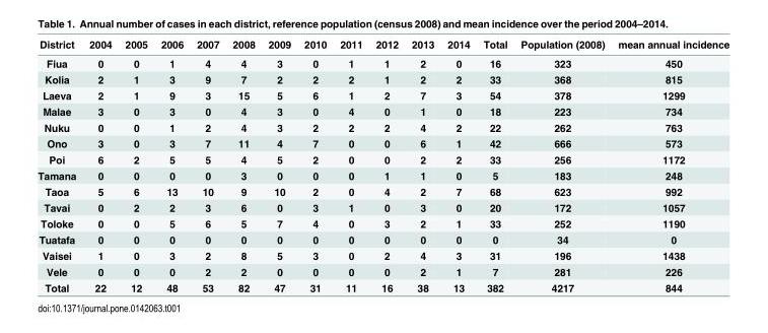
<table><thead><tr><td>District</td><td>2004</td><td>2005</td><td>2006</td><td>2007</td><td>2008</td><td>2009</td><td>2010</td><td>2011</td><td>2012</td><td>2013</td><td>2014</td><td>Total</td><td>Population (2008)</td><td>mean annual incidence</td></tr></thead><tbody><tr><td>Fiua</td><td>0</td><td>0</td><td>1</td><td>4</td><td>4</td><td>3</td><td>0</td><td>1</td><td>1</td><td>2</td><td>0</td><td>16</td><td>323</td><td>450</td></tr><tr><td>Kolia</td><td>2</td><td>1</td><td>3</td><td>9</td><td>7</td><td>2</td><td>2</td><td>2</td><td>1</td><td>2</td><td>2</td><td>33</td><td>368</td><td>815</td></tr><tr><td>Laeva</td><td>2</td><td>1</td><td>9</td><td>3</td><td>15</td><td>5</td><td>6</td><td>1</td><td>2</td><td>7</td><td>3</td><td>54</td><td>378</td><td>1299</td></tr><tr><td>Malae</td><td>3</td><td>0</td><td>3</td><td>0</td><td>4</td><td>3</td><td>0</td><td>4</td><td>0</td><td>1</td><td>0</td><td>18</td><td>223</td><td>734</td></tr><tr><td>Nuku</td><td>0</td><td>0</td><td>1</td><td>2</td><td>4</td><td>3</td><td>2</td><td>2</td><td>2</td><td>4</td><td>2</td><td>22</td><td>262</td><td>763</td></tr><tr><td>Ono</td><td>3</td><td>0</td><td>3</td><td>7</td><td>11</td><td>4</td><td>7</td><td>0</td><td>0</td><td>6</td><td>1</td><td>42</td><td>666</td><td>573</td></tr><tr><td>Poi</td><td>6</td><td>2</td><td>5</td><td>5</td><td>4</td><td>5</td><td>2</td><td>0</td><td>0</td><td>2</td><td>2</td><td>33</td><td>256</td><td>1172</td></tr><tr><td>Tamana</td><td>0</td><td>0</td><td>0</td><td>0</td><td>3</td><td>0</td><td>0</td><td>0</td><td>1</td><td>1</td><td>0</td><td>5</td><td>183</td><td>248</td></tr><tr><td>Taoa</td><td>5</td><td>6</td><td>13</td><td>10</td><td>9</td><td>10</td><td>2</td><td>0</td><td>4</td><td>2</td><td>7</td><td>68</td><td>623</td><td>992</td></tr><tr><td>Tavai</td><td>0</td><td>2</td><td>2</td><td>3</td><td>6</td><td>0</td><td>3</td><td>1</td><td>0</td><td>3</td><td>0</td><td>20</td><td>172</td><td>1057</td></tr><tr><td>Toloke</td><td>0</td><td>0</td><td>5</td><td>6</td><td>5</td><td>7</td><td>4</td><td>0</td><td>3</td><td>2</td><td>1</td><td>33</td><td>252</td><td>1190</td></tr><tr><td>Tuatafa</td><td>0</td><td>0</td><td>0</td><td>0</td><td>0</td><td>0</td><td>0</td><td>0</td><td>0</td><td>0</td><td>0</td><td>0</td><td>34</td><td>0</td></tr><tr><td>Vaisei</td><td>1</td><td>0</td><td>3</td><td>2</td><td>8</td><td>5</td><td>3</td><td>0</td><td>2</td><td>4</td><td>3</td><td>31</td><td>196</td><td>1438</td></tr><tr><td>Vele</td><td>0</td><td>0</td><td>0</td><td>2</td><td>2</td><td>0</td><td>0</td><td>0</td><td>0</td><td>2</td><td>1</td><td>7</td><td>281</td><td>226</td></tr><tr><td>Total</td><td>22</td><td>12</td><td>48</td><td>53</td><td>82</td><td>47</td><td>31</td><td>11</td><td>16</td><td>38</td><td>13</td><td>382</td><td>4217</td><td>844</td></tr></tbody></table>